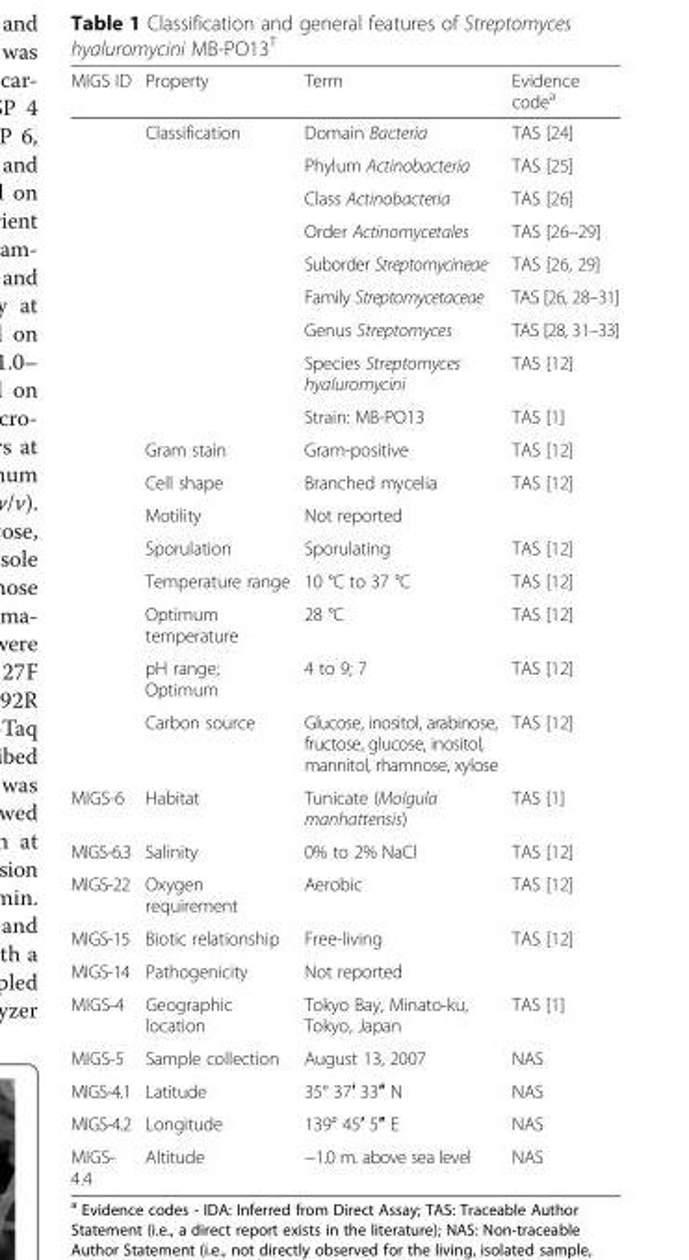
<table><thead><tr><td>MIGS ID</td><td>Property</td><td>Term</td><td>Evidence code<sup>a</sup></td></tr></thead><tbody><tr><td></td><td>Classification</td><td>Domain Bacteria</td><td>TAS [24]</td></tr><tr><td></td><td></td><td>Phylum Actinobacteria</td><td>TAS [25]</td></tr><tr><td></td><td></td><td>Class Actinobacteria</td><td>TAS [26]</td></tr><tr><td></td><td></td><td>Order Actinomycetales</td><td>TAS [26–29]</td></tr><tr><td></td><td></td><td>Suborder Streptomycineae</td><td>TAS [26, 29]</td></tr><tr><td></td><td></td><td>Family Streptomycetaceae</td><td>TAS [26, 28–31]</td></tr><tr><td></td><td></td><td>Genus Streptomyces</td><td>TAS [28, 31–33]</td></tr><tr><td></td><td></td><td>Species Streptomyces hyaluromycini</td><td>TAS [12]</td></tr><tr><td></td><td></td><td>Strain: MB-PO13</td><td>TAS [1]</td></tr><tr><td></td><td>Gram stain</td><td>Gram-positive</td><td>TAS [12]</td></tr><tr><td></td><td>Cell shape</td><td>Branched mycelia</td><td>TAS [12]</td></tr><tr><td></td><td>Motility</td><td>Not reported</td><td></td></tr><tr><td></td><td>Sporulation</td><td>Sporulating</td><td>TAS [12]</td></tr><tr><td></td><td>Temperature range</td><td>10 °C to 37 °C</td><td>TAS [12]</td></tr><tr><td></td><td>Optimum temperature</td><td>28 °C</td><td>TAS [12]</td></tr><tr><td></td><td>pH range; Optimum</td><td>4 to 9; 7</td><td>TAS [12]</td></tr><tr><td></td><td>Carbon source</td><td>Glucose, inositol, arabinose, fructose, glucose, inositol, mannitol, rhamnose, xylose</td><td>TAS [12]</td></tr><tr><td>MIGS-6</td><td>Habitat</td><td>Tunicate (Molgula manhattensis)</td><td>TAS [1]</td></tr><tr><td>MIGS-6.3</td><td>Salinity</td><td>0% to 2% NaCl</td><td>TAS [12]</td></tr><tr><td>MIGS-22</td><td>Oxygen requirement</td><td>Aerobic</td><td>TAS [12]</td></tr><tr><td>MIGS-15</td><td>Biotic relationship</td><td>Free-living</td><td>TAS [12]</td></tr><tr><td>MIGS-14</td><td>Pathogenicity</td><td>Not reported</td><td></td></tr><tr><td>MIGS-4</td><td>Geographic location</td><td>Tokyo Bay, Minato-ku, Tokyo, Japan</td><td>TAS [1]</td></tr><tr><td>MIGS-5</td><td>Sample collection</td><td>August 13, 2007</td><td>NAS</td></tr><tr><td>MIGS-4.1</td><td>Latitude</td><td>35° 37′ 33″ N</td><td>NAS</td></tr><tr><td>MIGS-4.2</td><td>Longitude</td><td>139° 45′ 5″ E</td><td>NAS</td></tr><tr><td>MIGS- 4.4</td><td>Altitude</td><td>−1.0 m. above sea level</td><td>NAS</td></tr></tbody></table>